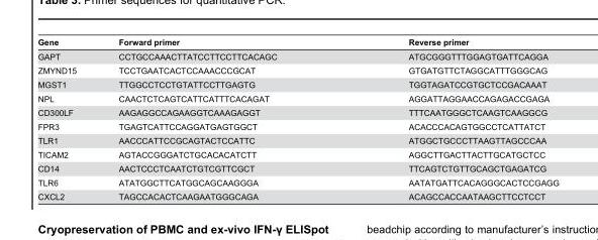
<table><thead><tr><td>Gene</td><td>Forward primer</td><td>Reverse primer</td></tr></thead><tbody><tr><td>GAPT</td><td>CCTGCCAAACTTATCCTTCCTTCACAGC</td><td>ATGCGGGTTTGGAGTGATTCAGGA</td></tr><tr><td>ZMYND15</td><td>TCCTGAATCACTCCAAACCCGCAT</td><td>GTGATGTTCTAGGCATTTGGGCAG</td></tr><tr><td>MGST1</td><td>TTGGCCTCCTGTATTCCTTGAGTG</td><td>TGGTAGATCCGTGCTCCGACAAAT</td></tr><tr><td>NPL</td><td>CAACTCTCAGTCATTCATTTCACAGAT</td><td>AGGATTAGGAACCAGAGACCGAGA</td></tr><tr><td>CD300LF</td><td>AAGAGGCCAGAAGGTCAAAGAGGT</td><td>TTTCAATGGGCTCAAGTCAAGGCG</td></tr><tr><td>FPR3</td><td>TGAGTCATTCCAGGATGAGTGGCT</td><td>ACACCCACAGTGGCCTCATTATCT</td></tr><tr><td>TLR1</td><td>AACCCATTCCGCAGTACTCCATTC</td><td>ATGGCTGCCCTTAAGTTAGCCCAA</td></tr><tr><td>TICAM2</td><td>AGTACCGGGATCTGCACACATCTT</td><td>AGGCTTGACTTACTTGCATGCTCC</td></tr><tr><td>CD14</td><td>AACTCCCTCAATCTGTCGTTCGCT</td><td>TTCAGTCTGTTGCAGCTGAGATCG</td></tr><tr><td>TLR6</td><td>ATATGGCTTCATGGCAGCAAGGGA</td><td>AATATGATTCACAGGGCACTCCGAGG</td></tr><tr><td>CXCL2</td><td>TAGCCACACTCAAGAATGGGCAGA</td><td>ACAGCCACCAATAAGCTTCCTCCT</td></tr></tbody></table>